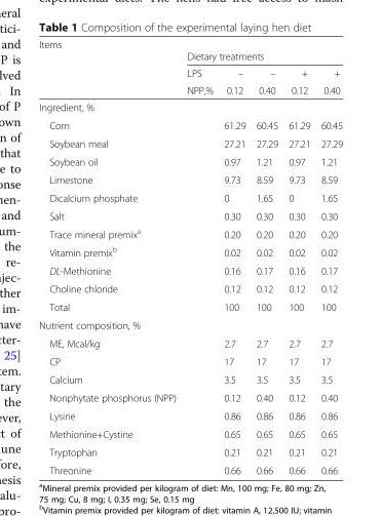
<table><thead><tr><td rowspan="3">Items</td><td colspan="5">Dietary treatments</td></tr><tr><td rowspan="2">LPS NPP,%</td><td rowspan="2">– 0.12</td><td rowspan="2">– 0.40</td><td rowspan="2">+ 0.12</td><td rowspan="2">+ 0.40</td></tr><tr></tr></thead><tbody><tr><td colspan="6">Ingredient, %</td></tr><tr><td>Corn</td><td></td><td>61.29</td><td>60.45</td><td>61.29</td><td>60.45</td></tr><tr><td>Soybean meal</td><td></td><td>27.21</td><td>27.29</td><td>27.21</td><td>27.29</td></tr><tr><td>Soybean oil</td><td></td><td>0.97</td><td>1.21</td><td>0.97</td><td>1.21</td></tr><tr><td>Limestone</td><td></td><td>9.73</td><td>8.59</td><td>9.73</td><td>8.59</td></tr><tr><td>Dicalcium phosphate</td><td></td><td>0</td><td>1.65</td><td>0</td><td>1.65</td></tr><tr><td>Salt</td><td></td><td>0.30</td><td>0.30</td><td>0.30</td><td>0.30</td></tr><tr><td>Trace mineral premix<sup>a</sup></td><td></td><td>0.20</td><td>0.20</td><td>0.20</td><td>0.20</td></tr><tr><td>Vitamin premix<sup>b</sup></td><td></td><td>0.02</td><td>0.02</td><td>0.02</td><td>0.02</td></tr><tr><td>DL-Methionine</td><td></td><td>0.16</td><td>0.17</td><td>0.16</td><td>0.17</td></tr><tr><td>Choline chloride</td><td></td><td>0.12</td><td>0.12</td><td>0.12</td><td>0.12</td></tr><tr><td>Total</td><td></td><td>100</td><td>100</td><td>100</td><td>100</td></tr><tr><td colspan="6">Nutrient composition, %</td></tr><tr><td>ME, Mcal/kg</td><td></td><td>2.7</td><td>2.7</td><td>2.7</td><td>2.7</td></tr><tr><td>CP</td><td></td><td>17</td><td>17</td><td>17</td><td>17</td></tr><tr><td>Calcium</td><td></td><td>3.5</td><td>3.5</td><td>3.5</td><td>3.5</td></tr><tr><td>Nonphytate phosphorus (NPP)</td><td></td><td>0.12</td><td>0.40</td><td>0.12</td><td>0.40</td></tr><tr><td>Lysine</td><td></td><td>0.86</td><td>0.86</td><td>0.86</td><td>0.86</td></tr><tr><td>Methionine+Cystine</td><td></td><td>0.65</td><td>0.65</td><td>0.65</td><td>0.65</td></tr><tr><td>Tryptophan</td><td></td><td>0.21</td><td>0.21</td><td>0.21</td><td>0.21</td></tr><tr><td>Threonine</td><td></td><td>0.66</td><td>0.66</td><td>0.66</td><td>0.66</td></tr></tbody></table>